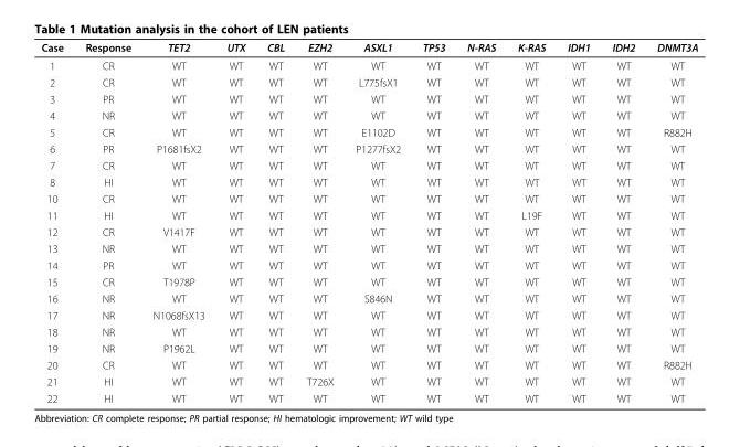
<table><thead><tr><td>Case</td><td>Response</td><td>TET2</td><td>UTX</td><td>CBL</td><td>EZH2</td><td>ASXL1</td><td>TP53</td><td>N-RAS</td><td>K-RAS</td><td>IDH1</td><td>IDH2</td><td>DNMT3A</td></tr></thead><tbody><tr><td>1</td><td>CR</td><td>WT</td><td>WT</td><td>WT</td><td>WT</td><td>WT</td><td>WT</td><td>WT</td><td>WT</td><td>WT</td><td>WT</td><td>WT</td></tr><tr><td>2</td><td>CR</td><td>WT</td><td>WT</td><td>WT</td><td>WT</td><td>L775fsX1</td><td>WT</td><td>WT</td><td>WT</td><td>WT</td><td>WT</td><td>WT</td></tr><tr><td>3</td><td>PR</td><td>WT</td><td>WT</td><td>WT</td><td>WT</td><td>WT</td><td>WT</td><td>WT</td><td>WT</td><td>WT</td><td>WT</td><td>WT</td></tr><tr><td>4</td><td>NR</td><td>WT</td><td>WT</td><td>WT</td><td>WT</td><td>WT</td><td>WT</td><td>WT</td><td>WT</td><td>WT</td><td>WT</td><td>WT</td></tr><tr><td>5</td><td>CR</td><td>WT</td><td>WT</td><td>WT</td><td>WT</td><td>E1102D</td><td>WT</td><td>WT</td><td>WT</td><td>WT</td><td>WT</td><td>R882H</td></tr><tr><td>6</td><td>PR</td><td>P1681fsX2</td><td>WT</td><td>WT</td><td>WT</td><td>P1277fsX2</td><td>WT</td><td>WT</td><td>WT</td><td>WT</td><td>WT</td><td>WT</td></tr><tr><td>7</td><td>CR</td><td>WT</td><td>WT</td><td>WT</td><td>WT</td><td>WT</td><td>WT</td><td>WT</td><td>WT</td><td>WT</td><td>WT</td><td>WT</td></tr><tr><td>8</td><td>HI</td><td>WT</td><td>WT</td><td>WT</td><td>WT</td><td>WT</td><td>WT</td><td>WT</td><td>WT</td><td>WT</td><td>WT</td><td>WT</td></tr><tr><td>10</td><td>CR</td><td>WT</td><td>WT</td><td>WT</td><td>WT</td><td>WT</td><td>WT</td><td>WT</td><td>WT</td><td>WT</td><td>WT</td><td>WT</td></tr><tr><td>11</td><td>HI</td><td>WT</td><td>WT</td><td>WT</td><td>WT</td><td>WT</td><td>WT</td><td>WT</td><td>L19F</td><td>WT</td><td>WT</td><td>WT</td></tr><tr><td>12</td><td>CR</td><td>V1417F</td><td>WT</td><td>WT</td><td>WT</td><td>WT</td><td>WT</td><td>WT</td><td>WT</td><td>WT</td><td>WT</td><td>WT</td></tr><tr><td>13</td><td>NR</td><td>WT</td><td>WT</td><td>WT</td><td>WT</td><td>WT</td><td>WT</td><td>WT</td><td>WT</td><td>WT</td><td>WT</td><td>WT</td></tr><tr><td>14</td><td>PR</td><td>WT</td><td>WT</td><td>WT</td><td>WT</td><td>WT</td><td>WT</td><td>WT</td><td>WT</td><td>WT</td><td>WT</td><td>WT</td></tr><tr><td>15</td><td>CR</td><td>T1978P</td><td>WT</td><td>WT</td><td>WT</td><td>WT</td><td>WT</td><td>WT</td><td>WT</td><td>WT</td><td>WT</td><td>WT</td></tr><tr><td>16</td><td>NR</td><td>WT</td><td>WT</td><td>WT</td><td>WT</td><td>S846N</td><td>WT</td><td>WT</td><td>WT</td><td>WT</td><td>WT</td><td>WT</td></tr><tr><td>17</td><td>NR</td><td>N1068fsX13</td><td>WT</td><td>WT</td><td>WT</td><td>WT</td><td>WT</td><td>WT</td><td>WT</td><td>WT</td><td>WT</td><td>WT</td></tr><tr><td>18</td><td>NR</td><td>WT</td><td>WT</td><td>WT</td><td>WT</td><td>WT</td><td>WT</td><td>WT</td><td>WT</td><td>WT</td><td>WT</td><td>WT</td></tr><tr><td>19</td><td>NR</td><td>P1962L</td><td>WT</td><td>WT</td><td>WT</td><td>WT</td><td>WT</td><td>WT</td><td>WT</td><td>WT</td><td>WT</td><td>WT</td></tr><tr><td>20</td><td>CR</td><td>WT</td><td>WT</td><td>WT</td><td>WT</td><td>WT</td><td>WT</td><td>WT</td><td>WT</td><td>WT</td><td>WT</td><td>R882H</td></tr><tr><td>21</td><td>HI</td><td>WT</td><td>WT</td><td>WT</td><td>T726X</td><td>WT</td><td>WT</td><td>WT</td><td>WT</td><td>WT</td><td>WT</td><td>WT</td></tr><tr><td>22</td><td>HI</td><td>WT</td><td>WT</td><td>WT</td><td>WT</td><td>WT</td><td>WT</td><td>WT</td><td>WT</td><td>WT</td><td>WT</td><td>WT</td></tr></tbody></table>